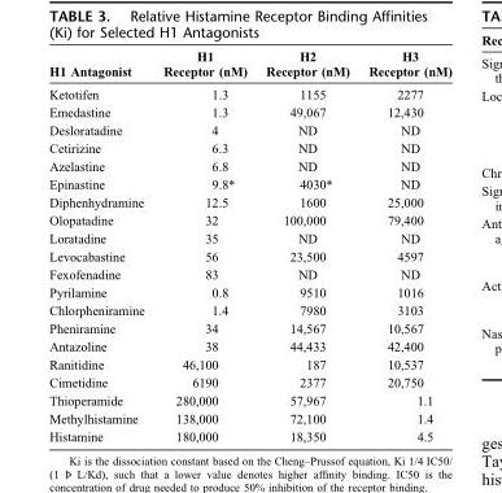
<table><thead><tr><td>H1 Antagonist</td><td>H1 Receptor (nM)</td><td>H2 Receptor (nM)</td><td>H3 Receptor (nM)</td></tr></thead><tbody><tr><td>Ketotifen</td><td>1.3</td><td>1155</td><td>2277</td></tr><tr><td>Emedastine</td><td>1.3</td><td>49,067</td><td>12,430</td></tr><tr><td>Desloratadine</td><td>4</td><td>ND</td><td>ND</td></tr><tr><td>Cetirizine</td><td>6.3</td><td>ND</td><td>ND</td></tr><tr><td>Azelastine</td><td>6.8</td><td>ND</td><td>ND</td></tr><tr><td>Epinastine</td><td>9.8*</td><td>4030*</td><td>ND</td></tr><tr><td>Diphenhydramine</td><td>12.5</td><td>1600</td><td>25,000</td></tr><tr><td>Olopatadine</td><td>32</td><td>100,000</td><td>79,400</td></tr><tr><td>Loratadine</td><td>35</td><td>ND</td><td>ND</td></tr><tr><td>Levocabastine</td><td>56</td><td>23,500</td><td>4597</td></tr><tr><td>Fexofenadine</td><td>83</td><td>ND</td><td>ND</td></tr><tr><td>Pyrilamine</td><td>0.8</td><td>9510</td><td>1016</td></tr><tr><td>Chlorpheniramine</td><td>1.4</td><td>7980</td><td>3103</td></tr><tr><td>Pheniramine</td><td>34</td><td>14,567</td><td>10,567</td></tr><tr><td>Antazoline</td><td>38</td><td>44,433</td><td>42,400</td></tr><tr><td>Ranitidine</td><td>46,100</td><td>187</td><td>10,537</td></tr><tr><td>Cimetidine</td><td>6190</td><td>2377</td><td>20,750</td></tr><tr><td>Thioperamide</td><td>280,000</td><td>57,967</td><td>1.1</td></tr><tr><td>Methylhistamine</td><td>138,000</td><td>72,100</td><td>1.4</td></tr><tr><td>Histamine</td><td>180,000</td><td>18,350</td><td>4.5</td></tr></tbody></table>